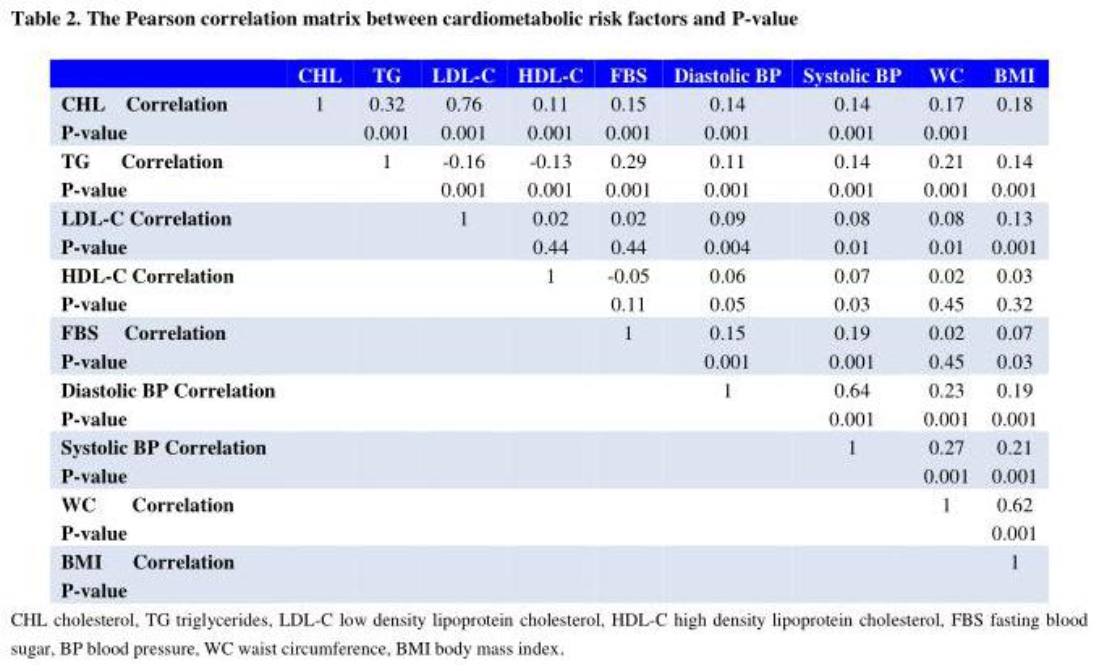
<table><thead><tr><td></td><td>CHL</td><td>TG</td><td>LDL-C</td><td>HDL-C</td><td>FBS</td><td>Diastolic BP</td><td>Systolic BP</td><td>WC</td><td>BMI</td></tr></thead><tbody><tr><td>CHL Correlation P-value</td><td>1</td><td>0.32 0.001</td><td>0.76 0.001</td><td>0.11 0.001</td><td>0.15 0.001</td><td>0.14 0.001</td><td>0.14 0.001</td><td>0.17 0.001</td><td>0.18</td></tr><tr><td>TG Correlation P-value</td><td></td><td>1</td><td>-0.16 0.001</td><td>-0.13 0.001</td><td>0.29 0.001</td><td>0.11 0.001</td><td>0.14 0.001</td><td>0.21 0.001</td><td>0.14 0.001</td></tr><tr><td>LDL-C Correlation P-value</td><td></td><td></td><td>1</td><td>0.02 0.44</td><td>0.02 0.44</td><td>0.09 0.004</td><td>0.08 0.01</td><td>0.08 0.01</td><td>0.13 0.001</td></tr><tr><td>HDL-C Correlation P-value</td><td></td><td></td><td></td><td>1</td><td>-0.05 0.11</td><td>0.06 0.05</td><td>0.07 0.03</td><td>0.02 0.45</td><td>0.03 0.32</td></tr><tr><td>FBS Correlation P-value</td><td></td><td></td><td></td><td></td><td>1</td><td>0.15 0.001</td><td>0.19 0.001</td><td>0.02 0.45</td><td>0.07 0.03</td></tr><tr><td>Diastolic BP Correlation P-value</td><td></td><td></td><td></td><td></td><td></td><td>1</td><td>0.64 0.001</td><td>0.23 0.001</td><td>0.19 0.001</td></tr><tr><td>Systolic BP Correlation P-value</td><td></td><td></td><td></td><td></td><td></td><td></td><td>1</td><td>0.27 0.001</td><td>0.21 0.001</td></tr><tr><td>WC Correlation P-value</td><td></td><td></td><td></td><td></td><td></td><td></td><td></td><td>1</td><td>0.62 0.001</td></tr><tr><td>BMI Correlation P-value</td><td></td><td></td><td></td><td></td><td></td><td></td><td></td><td></td><td>1</td></tr></tbody></table>